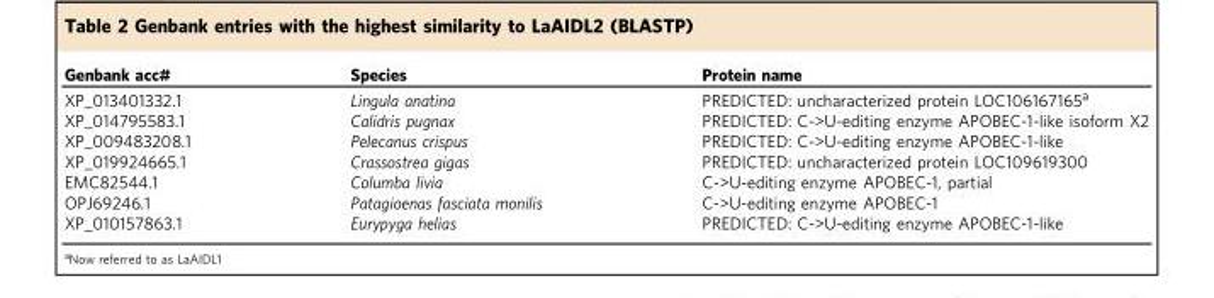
<table><thead><tr><td>Genbank acc#</td><td>Species</td><td>Protein name</td></tr></thead><tbody><tr><td>XP_013401332.1</td><td>Lingula anatina</td><td>PREDICTED: uncharacterized protein LOC106167165<sup>a</sup></td></tr><tr><td>XP_014795583.1</td><td>Calidris pugnax</td><td>PREDICTED: C-&gt;U-editing enzyme APOBEC-1-like isoform X2</td></tr><tr><td>XP_009483208.1</td><td>Pelecanus crispus</td><td>PREDICTED: C-&gt;U-editing enzyme APOBEC-1-like</td></tr><tr><td>XP_019924665.1</td><td>Crassostrea gigas</td><td>PREDICTED: uncharacterized protein LOC109619300</td></tr><tr><td>EMC82544.1</td><td>Columba livia</td><td>C-&gt;U-editing enzyme APOBEC-1, partial</td></tr><tr><td>OPJ69246.1</td><td>Patagioenas fasciata monilis</td><td>C-&gt;U-editing enzyme APOBEC-1</td></tr><tr><td>XP_010157863.1</td><td>Eurypyga helias</td><td>PREDICTED: C-&gt;U-editing enzyme APOBEC-1-like</td></tr></tbody></table>